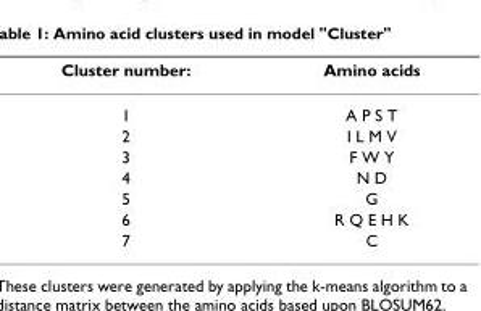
<table><thead><tr><td>Cluster number:</td><td>Amino acids</td></tr></thead><tbody><tr><td>1</td><td>A P S T</td></tr><tr><td>2</td><td>I L M V</td></tr><tr><td>3</td><td>F W Y</td></tr><tr><td>4</td><td>N D</td></tr><tr><td>5</td><td>G</td></tr><tr><td>6</td><td>R Q E H K</td></tr><tr><td>7</td><td>C</td></tr></tbody></table>